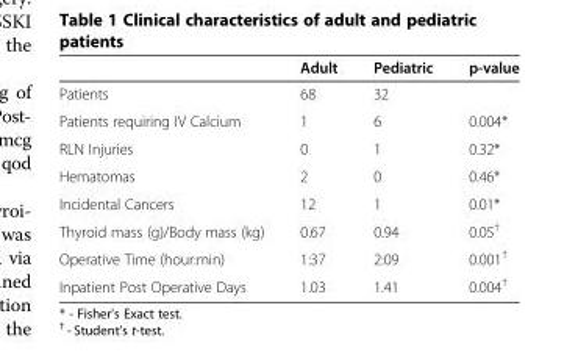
<table><thead><tr><td></td><td>Adult</td><td>Pediatric</td><td>p-value</td></tr></thead><tbody><tr><td>Patients</td><td>68</td><td>32</td><td></td></tr><tr><td>Patients requiring IV Calcium</td><td>1</td><td>6</td><td>0.004*</td></tr><tr><td>RLN Injuries</td><td>0</td><td>1</td><td>0.32*</td></tr><tr><td>Hematomas</td><td>2</td><td>0</td><td>0.46*</td></tr><tr><td>Incidental Cancers</td><td>12</td><td>1</td><td>0.01*</td></tr><tr><td>Thyroid mass (g)/Body mass (kg)</td><td>0.67</td><td>0.94</td><td>0.05<sup>†</sup></td></tr><tr><td>Operative Time (hour:min)</td><td>1:37</td><td>2:09</td><td>0.001<sup>†</sup></td></tr><tr><td>Inpatient Post Operative Days</td><td>1.03</td><td>1.41</td><td>0.004<sup>†</sup></td></tr></tbody></table>